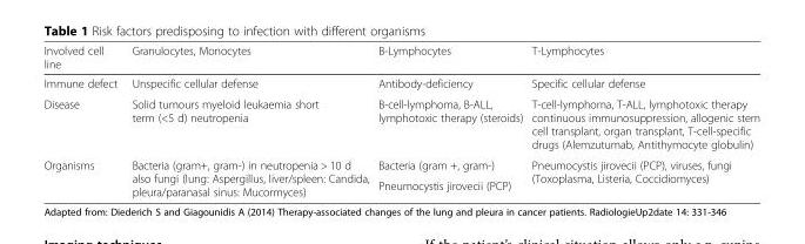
<table><thead><tr><td>Involved cell line</td><td>Granulocytes, Monocytes</td><td>B-Lymphocytes</td><td>T-Lymphocytes</td></tr></thead><tbody><tr><td>Immune defect</td><td>Unspecific cellular defense</td><td>Antibody-deficiency</td><td>Specific cellular defense</td></tr><tr><td>Disease</td><td>Solid tumours myeloid leukaemia short term (&lt;5 d) neutropenia</td><td>B-cell-lymphoma, B-ALL, lymphotoxic therapy (steroids)</td><td>T-cell-lymphoma, T-ALL, lymphotoxic therapy continuous immunosuppression, allogenic stem cell transplant, organ transplant, T-cell-specific drugs (Alemzutumab, Antithymocyte globulin)</td></tr><tr><td rowspan="2">Organisms</td><td rowspan="2">Bacteria (gram+, gram-) in neutropenia &gt; 10 d also fungi (lung: Aspergillus, liver/spleen: Candida, pleura/paranasal sinus: Mucormyces)</td><td>Bacteria (gram +, gram-)</td><td rowspan="2">Pneumocystis jirovecii (PCP), viruses, fungi (Toxoplasma, Listeria, Coccidiomyces)</td></tr><tr><td>Pneumocystis jirovecii (PCP)</td></tr></tbody></table>